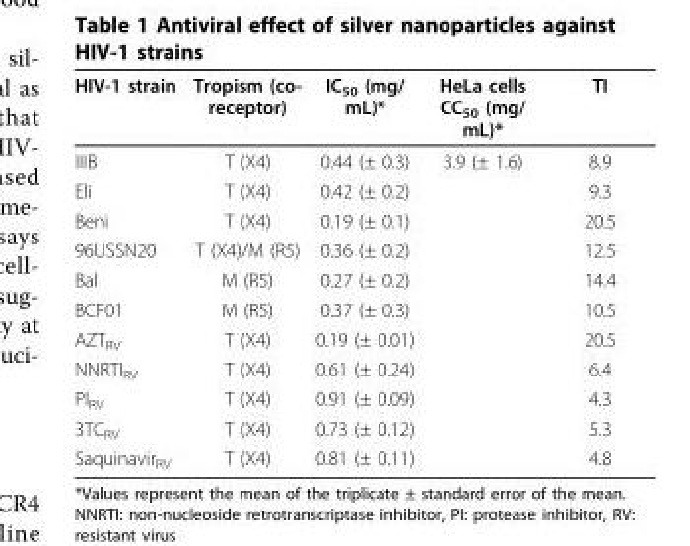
<table><thead><tr><td>HIV-1 strain</td><td>Tropism (co- receptor)</td><td>IC<sub>50</sub> (mg/ mL)*</td><td>HeLa cells CC<sub>50</sub> (mg/ mL)*</td><td>TI</td></tr></thead><tbody><tr><td>IIIB</td><td>T (X4)</td><td>0.44 (± 0.3)</td><td>3.9 (± 1.6)</td><td>8.9</td></tr><tr><td>Eli</td><td>T (X4)</td><td>0.42 (± 0.2)</td><td></td><td>9.3</td></tr><tr><td>Beni</td><td>T (X4)</td><td>0.19 (± 0.1)</td><td></td><td>20.5</td></tr><tr><td>96USSN20</td><td>T (X4)/M (R5)</td><td>0.36 (± 0.2)</td><td></td><td>12.5</td></tr><tr><td>Bal</td><td>M (R5)</td><td>0.27 (± 0.2)</td><td></td><td>14.4</td></tr><tr><td>BCF01</td><td>M (R5)</td><td>0.37 (± 0.3)</td><td></td><td>10.5</td></tr><tr><td>AZT<sub>RV</sub></td><td>T (X4)</td><td>0.19 (± 0.01)</td><td></td><td>20.5</td></tr><tr><td>NNRTI<sub>RV</sub></td><td>T (X4)</td><td>0.61 (± 0.24)</td><td></td><td>6.4</td></tr><tr><td>PI<sub>RV</sub></td><td>T (X4)</td><td>0.91 (± 0.09)</td><td></td><td>4.3</td></tr><tr><td>3TC<sub>RV</sub></td><td>T (X4)</td><td>0.73 (± 0.12)</td><td></td><td>5.3</td></tr><tr><td>Saquinavir<sub>RV</sub></td><td>T (X4)</td><td>0.81 (± 0.11)</td><td></td><td>4.8</td></tr></tbody></table>